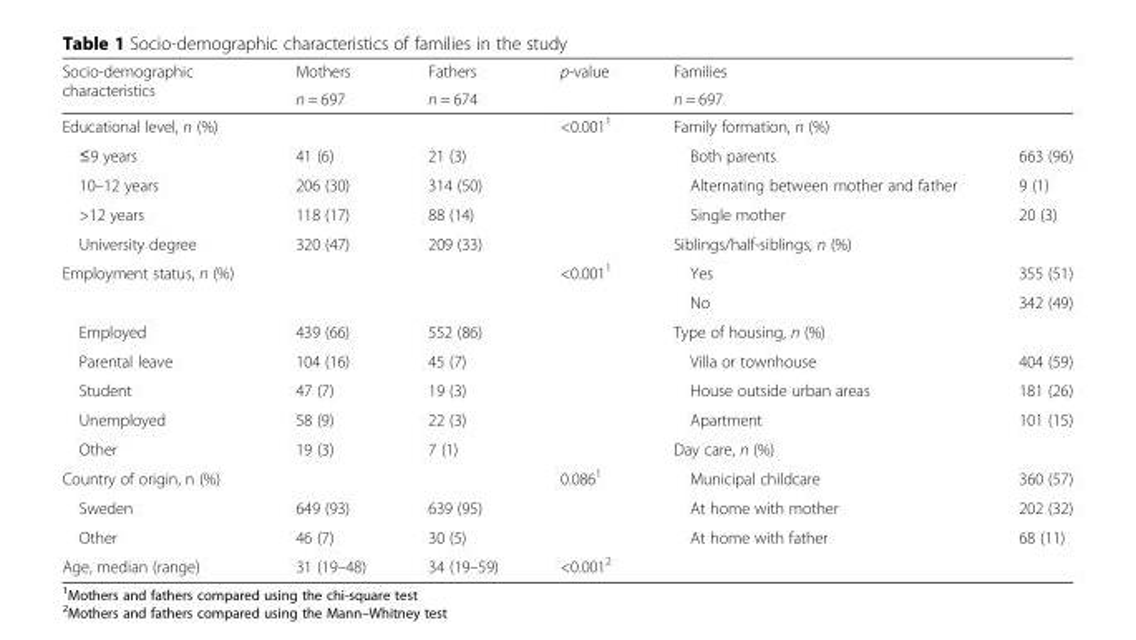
<table><thead><tr><td rowspan="2">Socio-demographic characteristics</td><td rowspan="2">Mothers n = 697</td><td rowspan="2">Fathers n = 674</td><td rowspan="2">p-value</td><td rowspan="2">Families n = 697</td><td rowspan="2"></td></tr><tr></tr></thead><tbody><tr><td>Educational level, n (%)</td><td></td><td></td><td>&lt;0.001<sup>1</sup></td><td>Family formation, n (%)</td><td></td></tr><tr><td>≤9 years</td><td>41 (6)</td><td>21 (3)</td><td></td><td>Both parents</td><td>663 (96)</td></tr><tr><td>10–12 years</td><td>206 (30)</td><td>314 (50)</td><td></td><td>Alternating between mother and father</td><td>9 (1)</td></tr><tr><td>&gt;12 years</td><td>118 (17)</td><td>88 (14)</td><td></td><td>Single mother</td><td>20 (3)</td></tr><tr><td>University degree</td><td>320 (47)</td><td>209 (33)</td><td></td><td>Siblings/half-siblings, n (%)</td><td></td></tr><tr><td rowspan="2">Employment status, n (%)</td><td></td><td></td><td>&lt;0.001<sup>1</sup></td><td>Yes</td><td>355 (51)</td></tr><tr><td></td><td></td><td></td><td>No</td><td>342 (49)</td></tr><tr><td>Employed</td><td>439 (66)</td><td>552 (86)</td><td></td><td>Type of housing, n (%)</td><td></td></tr><tr><td>Parental leave</td><td>104 (16)</td><td>45 (7)</td><td></td><td>Villa or townhouse</td><td>404 (59)</td></tr><tr><td>Student</td><td>47 (7)</td><td>19 (3)</td><td></td><td>House outside urban areas</td><td>181 (26)</td></tr><tr><td>Unemployed</td><td>58 (9)</td><td>22 (3)</td><td></td><td>Apartment</td><td>101 (15)</td></tr><tr><td>Other</td><td>19 (3)</td><td>7 (1)</td><td></td><td>Day care, n (%)</td><td></td></tr><tr><td>Country of origin, n (%)</td><td></td><td></td><td>0.086<sup>1</sup></td><td>Municipal childcare</td><td>360 (57)</td></tr><tr><td>Sweden</td><td>649 (93)</td><td>639 (95)</td><td></td><td>At home with mother</td><td>202 (32)</td></tr><tr><td>Other</td><td>46 (7)</td><td>30 (5)</td><td></td><td>At home with father</td><td>68 (11)</td></tr><tr><td>Age, median (range)</td><td>31 (19–48)</td><td>34 (19–59)</td><td>&lt;0.001<sup>2</sup></td><td></td><td></td></tr></tbody></table>